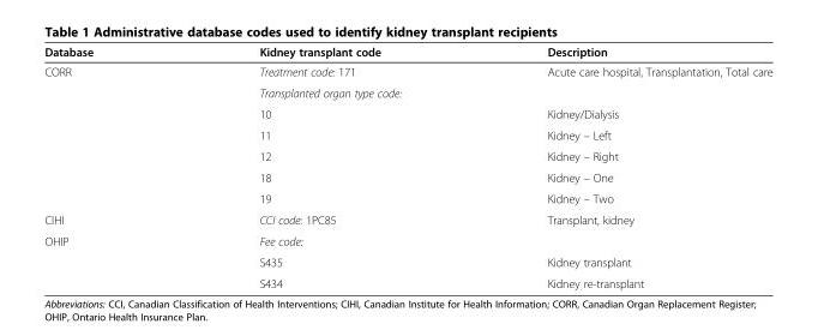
<table><thead><tr><td>Database</td><td>Kidney transplant code</td><td>Description</td></tr></thead><tbody><tr><td rowspan="7">CORR</td><td>Treatment code: 171</td><td>Acute care hospital, Transplantation, Total care</td></tr><tr><td colspan="2">Transplanted organ type code:</td></tr><tr><td>10</td><td>Kidney/Dialysis</td></tr><tr><td>11</td><td>Kidney – Left</td></tr><tr><td>12</td><td>Kidney – Right</td></tr><tr><td>18</td><td>Kidney – One</td></tr><tr><td>19</td><td>Kidney – Two</td></tr><tr><td>CIHI</td><td>CCI code: 1PC85</td><td>Transplant, kidney</td></tr><tr><td rowspan="3">OHIP</td><td colspan="2">Fee code:</td></tr><tr><td>S435</td><td>Kidney transplant</td></tr><tr><td>S434</td><td>Kidney re-transplant</td></tr></tbody></table>